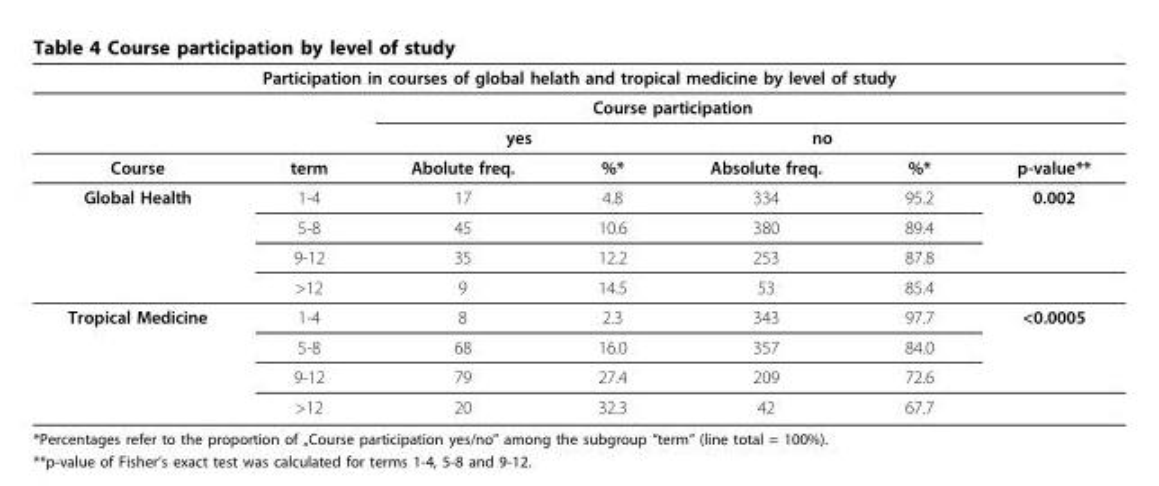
<table><thead><tr><td colspan="7">Participation in courses of global helath and tropical medicine by level of study</td></tr><tr><td rowspan="3">Course</td><td rowspan="3">term</td><td colspan="4">Course participation</td><td rowspan="3">p-value**</td></tr><tr><td colspan="2">yes</td><td colspan="2">no</td></tr><tr><td>Abolute freq.</td><td>%*</td><td>Absolute freq.</td><td>%*</td></tr></thead><tbody><tr><td rowspan="4">Global Health</td><td>1-4</td><td>17</td><td>4.8</td><td>334</td><td>95.2</td><td>0.002</td></tr><tr><td>5-8</td><td>45</td><td>10.6</td><td>380</td><td>89.4</td><td></td></tr><tr><td>9-12</td><td>35</td><td>12.2</td><td>253</td><td>87.8</td><td></td></tr><tr><td>&gt;12</td><td>9</td><td>14.5</td><td>53</td><td>85.4</td><td></td></tr><tr><td rowspan="4">Tropical Medicine</td><td>1-4</td><td>8</td><td>2.3</td><td>343</td><td>97.7</td><td>&lt;0.0005</td></tr><tr><td>5-8</td><td>68</td><td>16.0</td><td>357</td><td>84.0</td><td></td></tr><tr><td>9-12</td><td>79</td><td>27.4</td><td>209</td><td>72.6</td><td></td></tr><tr><td>&gt;12</td><td>20</td><td>32.3</td><td>42</td><td>67.7</td><td></td></tr></tbody></table>